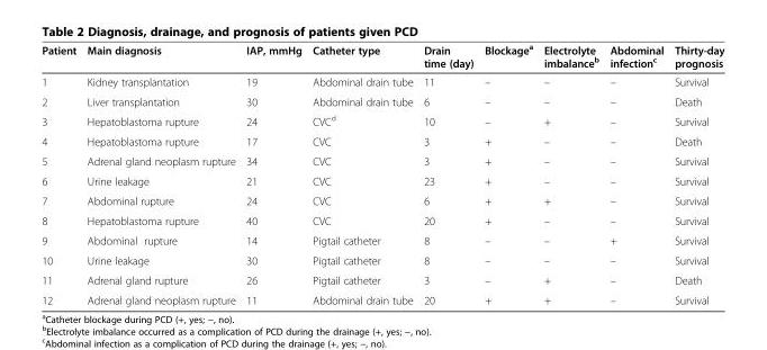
<table><thead><tr><td>Patient</td><td>Main diagnosis</td><td>IAP, mmHg</td><td>Catheter type</td><td>Drain time (day)</td><td>Blockage<sup>a</sup></td><td>Electrolyte imbalance<sup>b</sup></td><td>Abdominal infection<sup>c</sup></td><td>Thirty-day prognosis</td></tr></thead><tbody><tr><td>1</td><td>Kidney transplantation</td><td>19</td><td>Abdominal drain tube</td><td>11</td><td>–</td><td>–</td><td>–</td><td>Survival</td></tr><tr><td>2</td><td>Liver transplantation</td><td>30</td><td>Abdominal drain tube</td><td>6</td><td>–</td><td>–</td><td>–</td><td>Death</td></tr><tr><td>3</td><td>Hepatoblastoma rupture</td><td>24</td><td>CVC<sup>d</sup></td><td>10</td><td>–</td><td>+</td><td>–</td><td>Survival</td></tr><tr><td>4</td><td>Hepatoblastoma rupture</td><td>17</td><td>CVC</td><td>3</td><td>+</td><td>–</td><td>–</td><td>Death</td></tr><tr><td>5</td><td>Adrenal gland neoplasm rupture</td><td>34</td><td>CVC</td><td>3</td><td>+</td><td>–</td><td>–</td><td>Survival</td></tr><tr><td>6</td><td>Urine leakage</td><td>21</td><td>CVC</td><td>23</td><td>+</td><td>–</td><td>–</td><td>Survival</td></tr><tr><td>7</td><td>Abdominal rupture</td><td>24</td><td>CVC</td><td>6</td><td>+</td><td>+</td><td>–</td><td>Survival</td></tr><tr><td>8</td><td>Hepatoblastoma rupture</td><td>40</td><td>CVC</td><td>20</td><td>+</td><td>–</td><td>–</td><td>Survival</td></tr><tr><td>9</td><td>Abdominal rupture</td><td>14</td><td>Pigtail catheter</td><td>8</td><td>–</td><td>–</td><td>+</td><td>Survival</td></tr><tr><td>10</td><td>Urine leakage</td><td>30</td><td>Pigtail catheter</td><td>8</td><td>–</td><td>–</td><td>–</td><td>Survival</td></tr><tr><td>11</td><td>Adrenal gland rupture</td><td>26</td><td>Pigtail catheter</td><td>3</td><td>–</td><td>+</td><td>–</td><td>Death</td></tr><tr><td>12</td><td>Adrenal gland neoplasm rupture</td><td>11</td><td>Abdominal drain tube</td><td>20</td><td>+</td><td>+</td><td>–</td><td>Survival</td></tr></tbody></table>